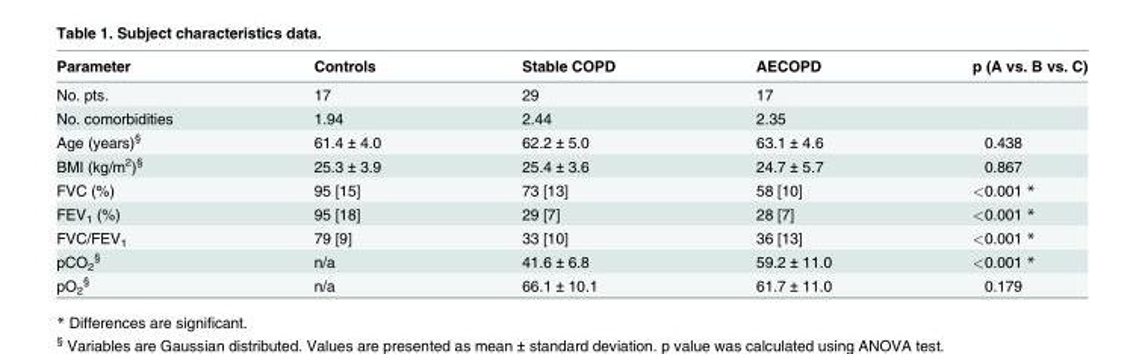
<table><thead><tr><td>Parameter</td><td>Controls</td><td>Stable COPD</td><td>AECOPD</td><td>p (A vs. B vs. C)</td></tr></thead><tbody><tr><td>No. pts.</td><td>17</td><td>29</td><td>17</td><td></td></tr><tr><td>No. comorbidities</td><td>1.94</td><td>2.44</td><td>2.35</td><td></td></tr><tr><td>Age (years)<sup>§</sup></td><td>61.4 ± 4.0</td><td>62.2 ± 5.0</td><td>63.1 ± 4.6</td><td>0.438</td></tr><tr><td>BMI (kg/m<sup>2</sup>)<sup>§</sup></td><td>25.3 ± 3.9</td><td>25.4 ± 3.6</td><td>24.7 ± 5.7</td><td>0.867</td></tr><tr><td>FVC (%)</td><td>95 [15]</td><td>73 [13]</td><td>58 [10]</td><td>&lt;0.001 *</td></tr><tr><td>FEV<sub>1</sub> (%)</td><td>95 [18]</td><td>29 [7]</td><td>28 [7]</td><td>&lt;0.001 *</td></tr><tr><td>FVC/FEV<sub>1</sub></td><td>79 [9]</td><td>33 [10]</td><td>36 [13]</td><td>&lt;0.001 *</td></tr><tr><td>pCO<sub>2</sub> <sup>§</sup></td><td>n/a</td><td>41.6 ± 6.8</td><td>59.2 ± 11.0</td><td>&lt;0.001 *</td></tr><tr><td>pO<sub>2</sub> <sup>§</sup></td><td>n/a</td><td>66.1 ± 10.1</td><td>61.7 ± 11.0</td><td>0.179</td></tr></tbody></table>